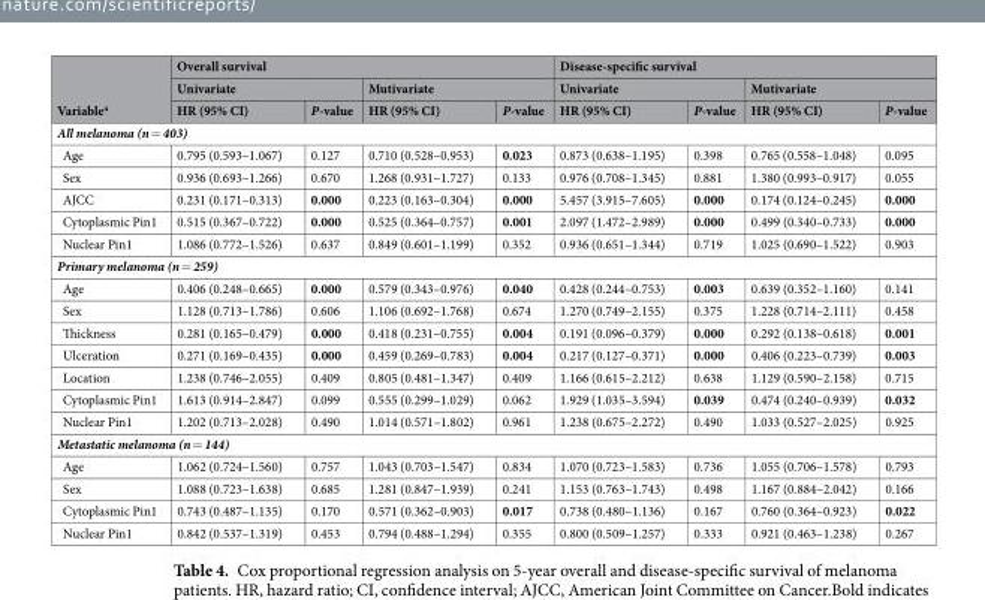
<table><thead><tr><td rowspan="3">Variable<sup>a</sup></td><td colspan="4">Overall survival</td><td colspan="4">Disease-specific survival</td></tr><tr><td colspan="2">Univariate</td><td colspan="2">Mutivariate</td><td colspan="2">Univariate</td><td colspan="2">Mutivariate</td></tr><tr><td>HR (95% CI)</td><td>P-value</td><td>HR (95% CI)</td><td>P-value</td><td>HR (95% CI)</td><td>P-value</td><td>HR (95% CI)</td><td>P-value</td></tr></thead><tbody><tr><td colspan="9">All melanoma (n = 403)</td></tr><tr><td>Age</td><td>0.795 (0.593–1.067)</td><td>0.127</td><td>0.710 (0.528–0.953)</td><td>0.023</td><td>0.873 (0.638–1.195)</td><td>0.398</td><td>0.765 (0.558–1.048)</td><td>0.095</td></tr><tr><td>Sex</td><td>0.936 (0.693–1.266)</td><td>0.670</td><td>1.268 (0.931–1.727)</td><td>0.133</td><td>0.976 (0.708–1.345)</td><td>0.881</td><td>1.380 (0.993–0.917)</td><td>0.055</td></tr><tr><td>AJCC</td><td>0.231 (0.171–0.313)</td><td>0.000</td><td>0.223 (0.163–0.304)</td><td>0.000</td><td>5.457 (3.915–7.605)</td><td>0.000</td><td>0.174 (0.124–0.245)</td><td>0.000</td></tr><tr><td>Cytoplasmic Pin1</td><td>0.515 (0.367–0.722)</td><td>0.000</td><td>0.525 (0.364–0.757)</td><td>0.001</td><td>2.097 (1.472–2.989)</td><td>0.000</td><td>0.499 (0.340–0.733)</td><td>0.000</td></tr><tr><td>Nuclear Pin1</td><td>1.086 (0.772–1.526)</td><td>0.637</td><td>0.849 (0.601–1.199)</td><td>0.352</td><td>0.936 (0.651–1.344)</td><td>0.719</td><td>1.025 (0.690–1.522)</td><td>0.903</td></tr><tr><td colspan="9">Primary melanoma (n = 259)</td></tr><tr><td>Age</td><td>0.406 (0.248–0.665)</td><td>0.000</td><td>0.579 (0.343–0.976)</td><td>0.040</td><td>0.428 (0.244–0.753)</td><td>0.003</td><td>0.639 (0.352–1.160)</td><td>0.141</td></tr><tr><td>Sex</td><td>1.128 (0.713–1.786)</td><td>0.606</td><td>1.106 (0.692–1.768)</td><td>0.674</td><td>1.270 (0.749–2.155)</td><td>0.375</td><td>1.228 (0.714–2.111)</td><td>0.458</td></tr><tr><td>Thickness</td><td>0.281 (0.165–0.479)</td><td>0.000</td><td>0.418 (0.231–0.755)</td><td>0.004</td><td>0.191 (0.096–0.379)</td><td>0.000</td><td>0.292 (0.138–0.618)</td><td>0.001</td></tr><tr><td>Ulceration</td><td>0.271 (0.169–0.435)</td><td>0.000</td><td>0.459 (0.269–0.783)</td><td>0.004</td><td>0.217 (0.127–0.371)</td><td>0.000</td><td>0.406 (0.223–0.739)</td><td>0.003</td></tr><tr><td>Location</td><td>1.238 (0.746–2.055)</td><td>0.409</td><td>0.805 (0.481–1.347)</td><td>0.409</td><td>1.166 (0.615–2.212)</td><td>0.638</td><td>1.129 (0.590–2.158)</td><td>0.715</td></tr><tr><td>Cytoplasmic Pin1</td><td>1.613 (0.914–2.847)</td><td>0.099</td><td>0.555 (0.299–1.029)</td><td>0.062</td><td>1.929 (1.035–3.594)</td><td>0.039</td><td>0.474 (0.240–0.939)</td><td>0.032</td></tr><tr><td>Nuclear Pin1</td><td>1.202 (0.713–2.028)</td><td>0.490</td><td>1.014 (0.571–1.802)</td><td>0.961</td><td>1.238 (0.675–2.272)</td><td>0.490</td><td>1.033 (0.527–2.025)</td><td>0.925</td></tr><tr><td colspan="9">Metastatic melanoma (n = 144)</td></tr><tr><td>Age</td><td>1.062 (0.724–1.560)</td><td>0.757</td><td>1.043 (0.703–1.547)</td><td>0.834</td><td>1.070 (0.723–1.583)</td><td>0.736</td><td>1.055 (0.706–1.578)</td><td>0.793</td></tr><tr><td>Sex</td><td>1.088 (0.723–1.638)</td><td>0.685</td><td>1.281 (0.847–1.939)</td><td>0.241</td><td>1.153 (0.763–1.743)</td><td>0.498</td><td>1.167 (0.884–2.042)</td><td>0.166</td></tr><tr><td>Cytoplasmic Pin1</td><td>0.743 (0.487–1.135)</td><td>0.170</td><td>0.571 (0.362–0.903)</td><td>0.017</td><td>0.738 (0.480–1.136)</td><td>0.167</td><td>0.760 (0.364–0.923)</td><td>0.022</td></tr><tr><td>Nuclear Pin1</td><td>0.842 (0.537–1.319)</td><td>0.453</td><td>0.794 (0.488–1.294)</td><td>0.355</td><td>0.800 (0.509–1.257)</td><td>0.333</td><td>0.921 (0.463–1.238)</td><td>0.267</td></tr></tbody></table>